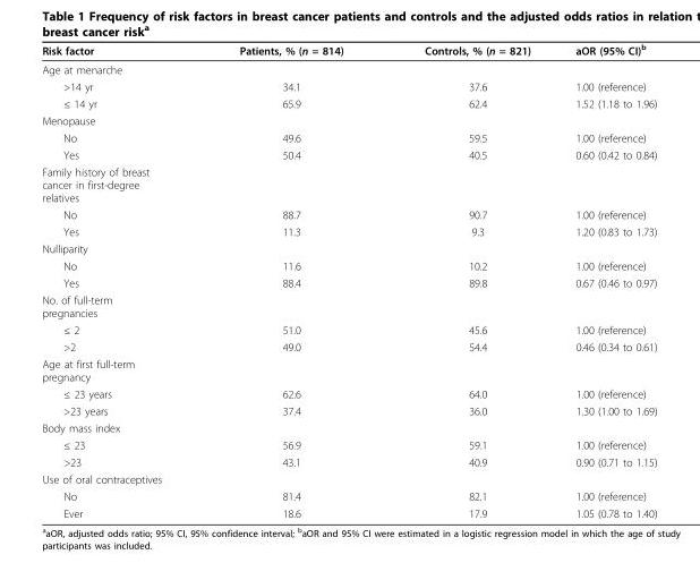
<table><thead><tr><td>Risk factor</td><td>Patients, % (n = 814)</td><td>Controls, % (n = 821)</td><td>aOR (95% CI)<sup>b</sup></td></tr></thead><tbody><tr><td colspan="4">Age at menarche</td></tr><tr><td>&gt;14 yr</td><td>34.1</td><td>37.6</td><td>1.00 (reference)</td></tr><tr><td>≤ 14 yr</td><td>65.9</td><td>62.4</td><td>1.52 (1.18 to 1.96)</td></tr><tr><td colspan="4">Menopause</td></tr><tr><td>No</td><td>49.6</td><td>59.5</td><td>1.00 (reference)</td></tr><tr><td>Yes</td><td>50.4</td><td>40.5</td><td>0.60 (0.42 to 0.84)</td></tr><tr><td colspan="4">Family history of breast cancer in first-degree relatives</td></tr><tr><td>No</td><td>88.7</td><td>90.7</td><td>1.00 (reference)</td></tr><tr><td>Yes</td><td>11.3</td><td>9.3</td><td>1.20 (0.83 to 1.73)</td></tr><tr><td colspan="4">Nulliparity</td></tr><tr><td>No</td><td>11.6</td><td>10.2</td><td>1.00 (reference)</td></tr><tr><td>Yes</td><td>88.4</td><td>89.8</td><td>0.67 (0.46 to 0.97)</td></tr><tr><td colspan="4">No. of full-term pregnancies</td></tr><tr><td>≤ 2</td><td>51.0</td><td>45.6</td><td>1.00 (reference)</td></tr><tr><td>&gt;2</td><td>49.0</td><td>54.4</td><td>0.46 (0.34 to 0.61)</td></tr><tr><td colspan="4">Age at first full-term pregnancy</td></tr><tr><td>≤ 23 years</td><td>62.6</td><td>64.0</td><td>1.00 (reference)</td></tr><tr><td>&gt;23 years</td><td>37.4</td><td>36.0</td><td>1.30 (1.00 to 1.69)</td></tr><tr><td colspan="4">Body mass index</td></tr><tr><td>≤ 23</td><td>56.9</td><td>59.1</td><td>1.00 (reference)</td></tr><tr><td>&gt;23</td><td>43.1</td><td>40.9</td><td>0.90 (0.71 to 1.15)</td></tr><tr><td colspan="4">Use of oral contraceptives</td></tr><tr><td>No</td><td>81.4</td><td>82.1</td><td>1.00 (reference)</td></tr><tr><td>Ever</td><td>18.6</td><td>17.9</td><td>1.05 (0.78 to 1.40)</td></tr></tbody></table>